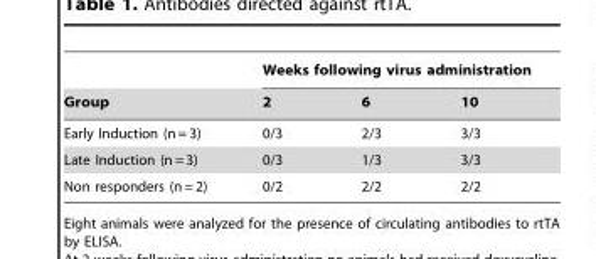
<table><thead><tr><td rowspan="2">Group</td><td colspan="3">Weeks following virus administration</td></tr><tr><td>2</td><td>6</td><td>10</td></tr></thead><tbody><tr><td>Early Induction (n = 3)</td><td>0/3</td><td>2/3</td><td>3/3</td></tr><tr><td>Late Induction (n = 3)</td><td>0/3</td><td>1/3</td><td>3/3</td></tr><tr><td>Non responders (n = 2)</td><td>0/2</td><td>2/2</td><td>2/2</td></tr></tbody></table>